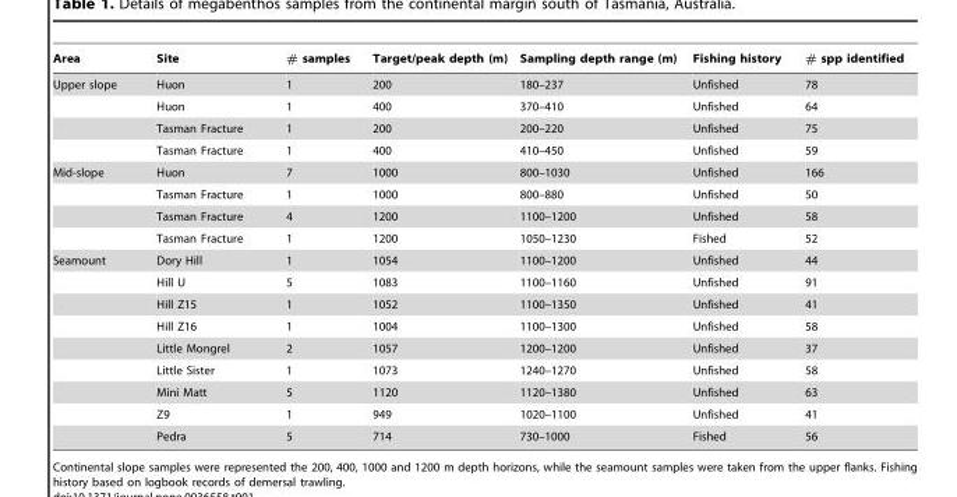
<table><thead><tr><td>Area</td><td>Site</td><td># samples</td><td>Target/peak depth (m)</td><td>Sampling depth range (m)</td><td>Fishing history</td><td># spp identified</td></tr></thead><tbody><tr><td rowspan="4">Upper slope</td><td>Huon</td><td>1</td><td>200</td><td>180–237</td><td>Unfished</td><td>78</td></tr><tr><td>Huon</td><td>1</td><td>400</td><td>370–410</td><td>Unfished</td><td>64</td></tr><tr><td>Tasman Fracture</td><td>1</td><td>200</td><td>200–220</td><td>Unfished</td><td>75</td></tr><tr><td>Tasman Fracture</td><td>1</td><td>400</td><td>410–450</td><td>Unfished</td><td>59</td></tr><tr><td rowspan="4">Mid-slope</td><td>Huon</td><td>7</td><td>1000</td><td>800–1030</td><td>Unfished</td><td>166</td></tr><tr><td>Tasman Fracture</td><td>1</td><td>1000</td><td>800–880</td><td>Unfished</td><td>50</td></tr><tr><td>Tasman Fracture</td><td>4</td><td>1200</td><td>1100–1200</td><td>Unfished</td><td>58</td></tr><tr><td>Tasman Fracture</td><td>1</td><td>1200</td><td>1050–1230</td><td>Fished</td><td>52</td></tr><tr><td rowspan="9">Seamount</td><td>Dory Hill</td><td>1</td><td>1054</td><td>1100–1200</td><td>Unfished</td><td>44</td></tr><tr><td>Hill U</td><td>5</td><td>1083</td><td>1100–1160</td><td>Unfished</td><td>91</td></tr><tr><td>Hill Z15</td><td>1</td><td>1052</td><td>1100–1350</td><td>Unfished</td><td>41</td></tr><tr><td>Hill Z16</td><td>1</td><td>1004</td><td>1100–1300</td><td>Unfished</td><td>58</td></tr><tr><td>Little Mongrel</td><td>2</td><td>1057</td><td>1200–1200</td><td>Unfished</td><td>37</td></tr><tr><td>Little Sister</td><td>1</td><td>1073</td><td>1240–1270</td><td>Unfished</td><td>58</td></tr><tr><td>Mini Matt</td><td>5</td><td>1120</td><td>1120–1380</td><td>Unfished</td><td>63</td></tr><tr><td>Z9</td><td>1</td><td>949</td><td>1020–1100</td><td>Unfished</td><td>41</td></tr><tr><td>Pedra</td><td>5</td><td>714</td><td>730–1000</td><td>Fished</td><td>56</td></tr></tbody></table>